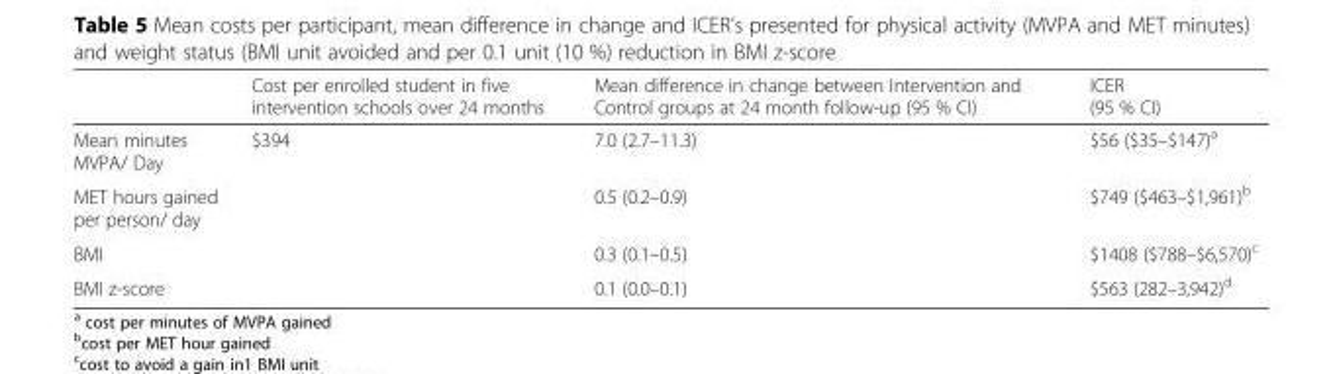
<table><thead><tr><td></td><td>Cost per enrolled student in five intervention schools over 24 months</td><td>Mean difference in change between Intervention and Control groups at 24 month follow-up (95 % CI)</td><td>ICER (95 % CI)</td></tr></thead><tbody><tr><td>Mean minutes MVPA/ Day</td><td rowspan="4">$394</td><td>7.0 (2.7–11.3)</td><td>$56 ($35–$147)<sup>a</sup></td></tr><tr><td>MET hours gained per person/ day</td><td>0.5 (0.2–0.9)</td><td>$749 ($463–$1,961)<sup>b</sup></td></tr><tr><td>BMI</td><td>0.3 (0.1–0.5)</td><td>$1408 ($788–$6,570)<sup>c</sup></td></tr><tr><td>BMI z-score</td><td>0.1 (0.0–0.1)</td><td>$563 (282–3,942)<sup>d</sup></td></tr></tbody></table>